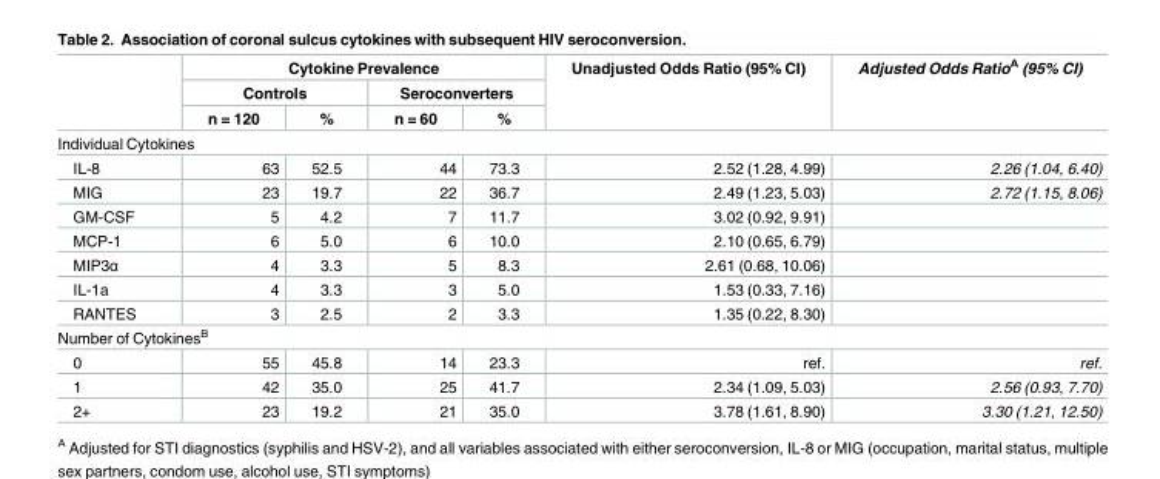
<table><thead><tr><td rowspan="3"></td><td colspan="4">Cytokine Prevalence</td><td rowspan="3">Unadjusted Odds Ratio (95% CI)</td><td rowspan="3">Adjusted Odds Ratio<sup>A</sup> (95% CI)</td></tr><tr><td colspan="2">Controls</td><td colspan="2">Seroconverters</td></tr><tr><td>n = 120</td><td>%</td><td>n = 60</td><td>%</td></tr></thead><tbody><tr><td colspan="7">Individual Cytokines</td></tr><tr><td>IL-8</td><td>63</td><td>52.5</td><td>44</td><td>73.3</td><td>2.52 (1.28, 4.99)</td><td>2.26 (1.04, 6.40)</td></tr><tr><td>MIG</td><td>23</td><td>19.7</td><td>22</td><td>36.7</td><td>2.49 (1.23, 5.03)</td><td>2.72 (1.15, 8.06)</td></tr><tr><td>GM-CSF</td><td>5</td><td>4.2</td><td>7</td><td>11.7</td><td>3.02 (0.92, 9.91)</td><td></td></tr><tr><td>MCP-1</td><td>6</td><td>5.0</td><td>6</td><td>10.0</td><td>2.10 (0.65, 6.79)</td><td></td></tr><tr><td>MIP3α</td><td>4</td><td>3.3</td><td>5</td><td>8.3</td><td>2.61 (0.68, 10.06)</td><td></td></tr><tr><td>IL-1a</td><td>4</td><td>3.3</td><td>3</td><td>5.0</td><td>1.53 (0.33, 7.16)</td><td></td></tr><tr><td>RANTES</td><td>3</td><td>2.5</td><td>2</td><td>3.3</td><td>1.35 (0.22, 8.30)</td><td></td></tr><tr><td colspan="7">Number of Cytokines<sup>B</sup></td></tr><tr><td>0</td><td>55</td><td>45.8</td><td>14</td><td>23.3</td><td>ref.</td><td>ref.</td></tr><tr><td>1</td><td>42</td><td>35.0</td><td>25</td><td>41.7</td><td>2.34 (1.09, 5.03)</td><td>2.56 (0.93, 7.70)</td></tr><tr><td>2+</td><td>23</td><td>19.2</td><td>21</td><td>35.0</td><td>3.78 (1.61, 8.90)</td><td>3.30 (1.21, 12.50)</td></tr></tbody></table>